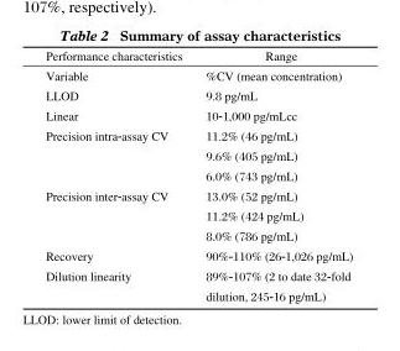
<table><thead><tr><td>Performance characteristics</td><td>Range</td></tr></thead><tbody><tr><td>Variable</td><td>%CV (mean concentration)</td></tr><tr><td>LLOD</td><td>9.8 pg/mL</td></tr><tr><td>Linear</td><td>10-1,000 pg/mLcc</td></tr><tr><td rowspan="3">Precision intra-assay CV</td><td>11.2% (46 pg/mL)</td></tr><tr><td>9.6% (405 pg/mL)</td></tr><tr><td>6.0% (743 pg/mL)</td></tr><tr><td rowspan="3">Precision inter-assay CV</td><td>13.0% (52 pg/mL)</td></tr><tr><td>11.2% (424 pg/mL)</td></tr><tr><td>8.0% (786 pg/mL)</td></tr><tr><td>Recovery</td><td>90%-110% (26-1,026 pg/mL)</td></tr><tr><td>Dilution linearity</td><td>89%-107% (2 to date 32-fold dilution, 245-16 pg/mL)</td></tr></tbody></table>